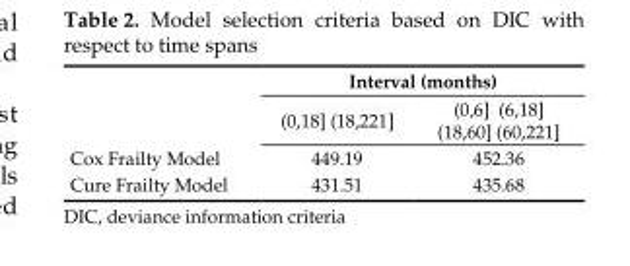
<table><thead><tr><td rowspan="2"></td><td colspan="2">Interval (months)</td></tr><tr><td>(0,18] (18,221]</td><td>(0,6] (6,18] (18,60] (60,221]</td></tr></thead><tbody><tr><td>Cox Frailty Model</td><td>449.19</td><td>452.36</td></tr><tr><td>Cure Frailty Model</td><td>431.51</td><td>435.68</td></tr></tbody></table>